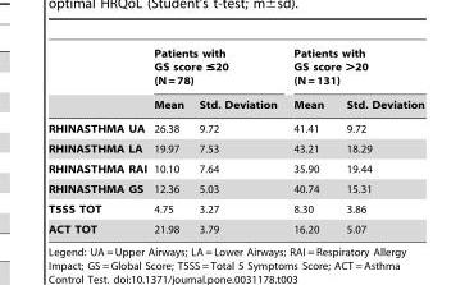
<table><thead><tr><td rowspan="2"></td><td colspan="2">Patients with GS score ≤20 (N = 78)</td><td colspan="2">Patients with GS score &gt;20 (N = 131)</td></tr><tr><td>Mean</td><td>Std. Deviation</td><td>Mean</td><td>Std. Deviation</td></tr></thead><tbody><tr><td>RHINASTHMA UA</td><td>26.38</td><td>9.72</td><td>41.41</td><td>9.72</td></tr><tr><td>RHINASTHMA LA</td><td>19.97</td><td>7.53</td><td>43.21</td><td>18.29</td></tr><tr><td>RHINASTHMA RAI</td><td>10.10</td><td>7.64</td><td>35.90</td><td>19.44</td></tr><tr><td>RHINASTHMA GS</td><td>12.36</td><td>5.03</td><td>40.74</td><td>15.31</td></tr><tr><td>T5SS TOT</td><td>4.75</td><td>3.27</td><td>8.30</td><td>3.86</td></tr><tr><td>ACT TOT</td><td>21.98</td><td>3.79</td><td>16.20</td><td>5.07</td></tr></tbody></table>